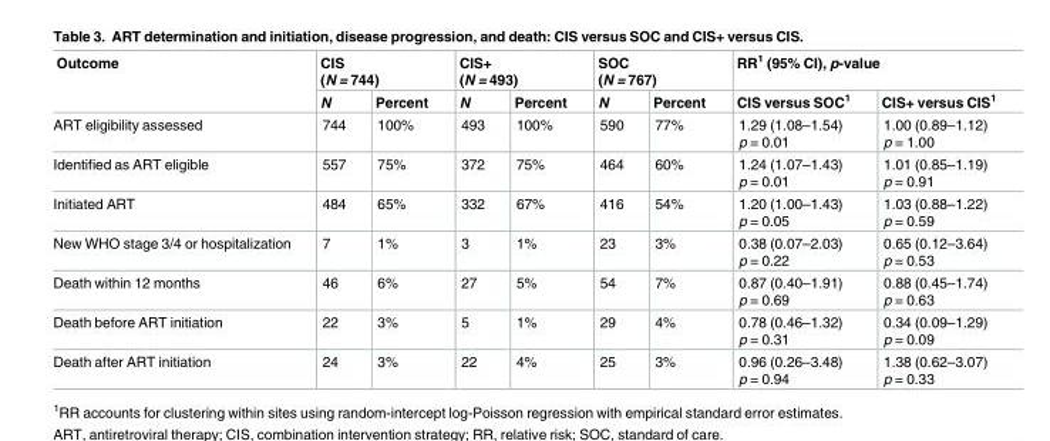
<table><thead><tr><td rowspan="2">Outcome</td><td colspan="2">CIS (N = 744)</td><td colspan="2">CIS+ (N = 493)</td><td colspan="2">SOC (N = 767)</td><td colspan="2">RR<sup>1</sup> (95% CI), p-value</td></tr><tr><td>N</td><td>Percent</td><td>N</td><td>Percent</td><td>N</td><td>Percent</td><td>CIS versus SOC<sup>1</sup></td><td>CIS+ versus CIS<sup>1</sup></td></tr></thead><tbody><tr><td>ART eligibility assessed</td><td>744</td><td>100%</td><td>493</td><td>100%</td><td>590</td><td>77%</td><td>1.29 (1.08–1.54) p = 0.01</td><td>1.00 (0.89–1.12) p = 1.00</td></tr><tr><td>Identified as ART eligible</td><td>557</td><td>75%</td><td>372</td><td>75%</td><td>464</td><td>60%</td><td>1.24 (1.07–1.43) p = 0.01</td><td>1.01 (0.85–1.19) p = 0.91</td></tr><tr><td>Initiated ART</td><td>484</td><td>65%</td><td>332</td><td>67%</td><td>416</td><td>54%</td><td>1.20 (1.00–1.43) p = 0.05</td><td>1.03 (0.88–1.22) p = 0.59</td></tr><tr><td>New WHO stage 3/4 or hospitalization</td><td>7</td><td>1%</td><td>3</td><td>1%</td><td>23</td><td>3%</td><td>0.38 (0.07–2.03) p = 0.22</td><td>0.65 (0.12–3.64) p = 0.53</td></tr><tr><td>Death within 12 months</td><td>46</td><td>6%</td><td>27</td><td>5%</td><td>54</td><td>7%</td><td>0.87 (0.40–1.91) p = 0.69</td><td>0.88 (0.45–1.74) p = 0.63</td></tr><tr><td>Death before ART initiation</td><td>22</td><td>3%</td><td>5</td><td>1%</td><td>29</td><td>4%</td><td>0.78 (0.46–1.32) p = 0.31</td><td>0.34 (0.09–1.29) p = 0.09</td></tr><tr><td>Death after ART initiation</td><td>24</td><td>3%</td><td>22</td><td>4%</td><td>25</td><td>3%</td><td>0.96 (0.26–3.48) p = 0.94</td><td>1.38 (0.62–3.07) p = 0.33</td></tr></tbody></table>